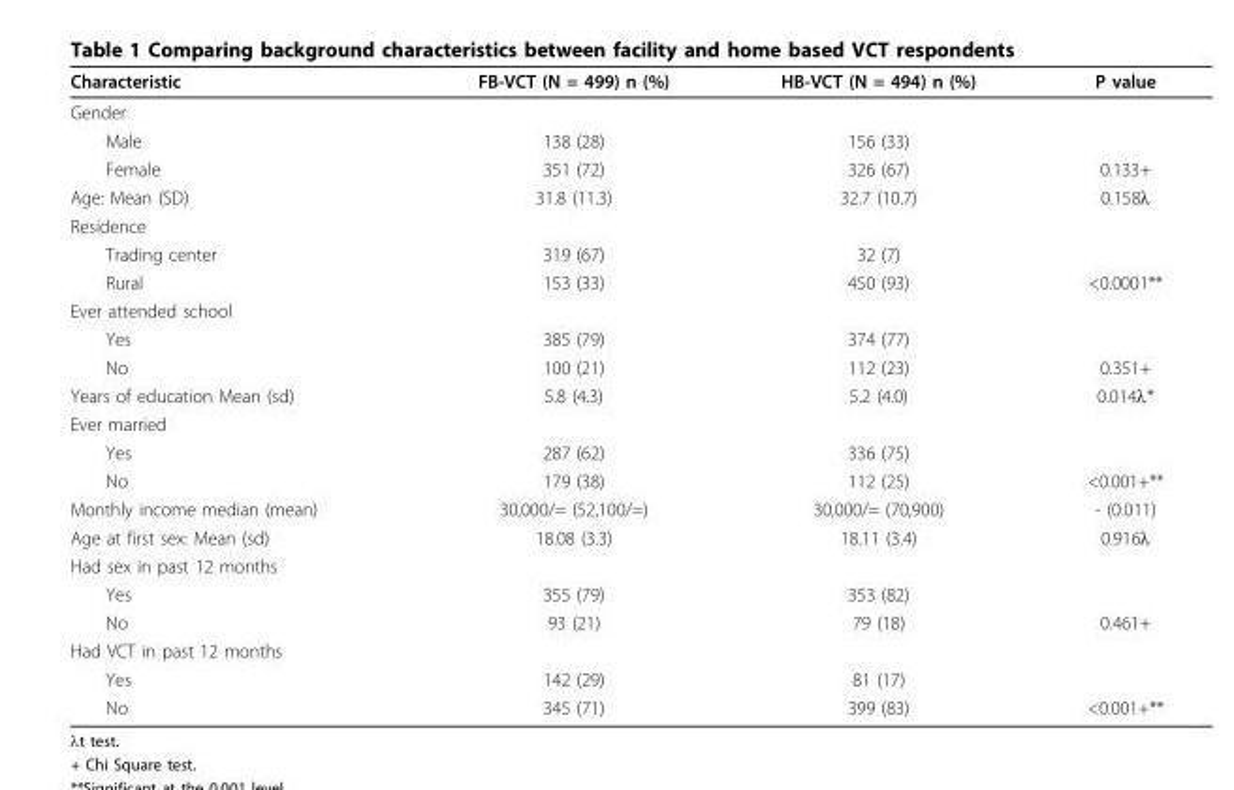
<table><thead><tr><td>Characteristic</td><td>FB-VCT (N = 499) n (%)</td><td>HB-VCT (N = 494) n (%)</td><td>P value</td></tr></thead><tbody><tr><td colspan="4">Gender</td></tr><tr><td>Male</td><td>138 (28)</td><td>156 (33)</td><td></td></tr><tr><td>Female</td><td>351 (72)</td><td>326 (67)</td><td>0.133+</td></tr><tr><td>Age: Mean (SD)</td><td>31.8 (11.3)</td><td>32.7 (10.7)</td><td>0.158λ</td></tr><tr><td colspan="4">Residence</td></tr><tr><td>Trading center</td><td>319 (67)</td><td>32 (7)</td><td></td></tr><tr><td>Rural</td><td>153 (33)</td><td>450 (93)</td><td>&lt;0.0001**</td></tr><tr><td colspan="4">Ever attended school</td></tr><tr><td>Yes</td><td>385 (79)</td><td>374 (77)</td><td></td></tr><tr><td>No</td><td>100 (21)</td><td>112 (23)</td><td>0.351+</td></tr><tr><td>Years of education Mean (sd)</td><td>5.8 (4.3)</td><td>5.2 (4.0)</td><td>0.014λ*</td></tr><tr><td colspan="4">Ever married</td></tr><tr><td>Yes</td><td>287 (62)</td><td>336 (75)</td><td></td></tr><tr><td>No</td><td>179 (38)</td><td>112 (25)</td><td>&lt;0.001+**</td></tr><tr><td>Monthly income median (mean)</td><td>30,000/= (52,100/=)</td><td>30,000/= (70,900)</td><td>- (0.011)</td></tr><tr><td>Age at first sex: Mean (sd)</td><td>18.08 (3.3)</td><td>18.11 (3.4)</td><td>0.916λ</td></tr><tr><td colspan="4">Had sex in past 12 months</td></tr><tr><td>Yes</td><td>355 (79)</td><td>353 (82)</td><td></td></tr><tr><td>No</td><td>93 (21)</td><td>79 (18)</td><td>0.461+</td></tr><tr><td colspan="4">Had VCT in past 12 months</td></tr><tr><td>Yes</td><td>142 (29)</td><td>81 (17)</td><td></td></tr><tr><td>No</td><td>345 (71)</td><td>399 (83)</td><td>&lt;0.001+**</td></tr></tbody></table>